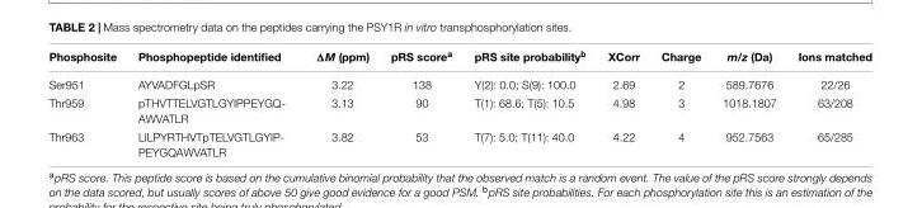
<table><thead><tr><td>Phosphosite</td><td>Phosphopeptide identified</td><td>ΔM (ppm)</td><td>pRS score<sup>a</sup></td><td>pRS site probability<sup>b</sup></td><td>XCorr</td><td>Charge</td><td>m/z (Da)</td><td>Ions matched</td></tr></thead><tbody><tr><td>Ser951</td><td>AYVADFGLpSR</td><td>3.22</td><td>138</td><td>Y(2): 0.0; S(9): 100.0</td><td>2.69</td><td>2</td><td>589.7676</td><td>22/26</td></tr><tr><td>Thr959</td><td>pTHVTTELVGTLGYIPPEYGQ- AWVATLR</td><td>3.13</td><td>90</td><td>T(1): 68.6; T(5): 10.5</td><td>4.98</td><td>3</td><td>1018.1807</td><td>63/208</td></tr><tr><td>Thr963</td><td>LILPYRTHVTpTELVGTLGYIP- PEYGQAWVATLR</td><td>3.82</td><td>53</td><td>T(7): 5.0; T(11): 40.0</td><td>4.22</td><td>4</td><td>952.7563</td><td>65/285</td></tr></tbody></table>